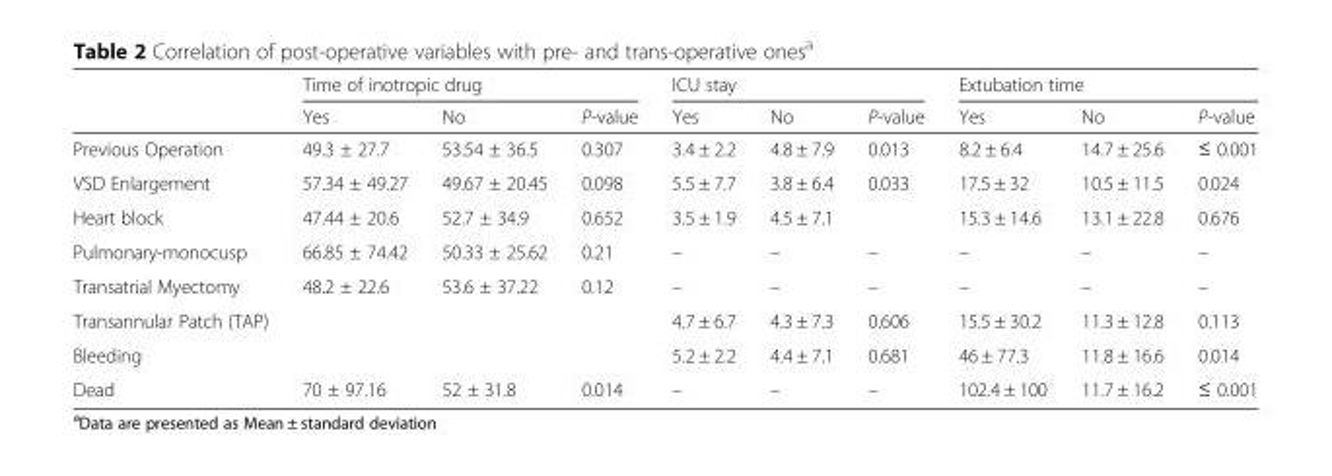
<table><thead><tr><td rowspan="2"></td><td colspan="3">Time of inotropic drug</td><td colspan="3">ICU stay</td><td colspan="3">Extubation time</td></tr><tr><td>Yes</td><td>No</td><td>P-value</td><td>Yes</td><td>No</td><td>P-value</td><td>Yes</td><td>No</td><td>P-value</td></tr></thead><tbody><tr><td>Previous Operation</td><td>49.3 ± 27.7</td><td>53.54 ± 36.5</td><td>0.307</td><td>3.4 ± 2.2</td><td>4.8 ± 7.9</td><td>0.013</td><td>8.2 ± 6.4</td><td>14.7 ± 25.6</td><td>≤ 0.001</td></tr><tr><td>VSD Enlargement</td><td>57.34 ± 49.27</td><td>49.67 ± 20.45</td><td>0.098</td><td>5.5 ± 7.7</td><td>3.8 ± 6.4</td><td>0.033</td><td>17.5 ± 32</td><td>10.5 ± 11.5</td><td>0.024</td></tr><tr><td>Heart block</td><td>47.44 ± 20.6</td><td>52.7 ± 34.9</td><td>0.652</td><td>3.5 ± 1.9</td><td>4.5 ± 7.1</td><td></td><td>15.3 ± 14.6</td><td>13.1 ± 22.8</td><td>0.676</td></tr><tr><td>Pulmonary-monocusp</td><td>66.85 ± 74.42</td><td>50.33 ± 25.62</td><td>0.21</td><td>–</td><td>–</td><td>–</td><td>–</td><td>–</td><td>–</td></tr><tr><td>Transatrial Myectomy</td><td>48.2 ± 22.6</td><td>53.6 ± 37.22</td><td>0.12</td><td>–</td><td>–</td><td>–</td><td>–</td><td>–</td><td>–</td></tr><tr><td>Transannular Patch (TAP)</td><td></td><td></td><td></td><td>4.7 ± 6.7</td><td>4.3 ± 7.3</td><td>0.606</td><td>15.5 ± 30.2</td><td>11.3 ± 12.8</td><td>0.113</td></tr><tr><td>Bleeding</td><td></td><td></td><td></td><td>5.2 ± 2.2</td><td>4.4 ± 7.1</td><td>0.681</td><td>46 ± 77.3</td><td>11.8 ± 16.6</td><td>0.014</td></tr><tr><td>Dead</td><td>70 ± 97.16</td><td>52 ± 31.8</td><td>0.014</td><td>–</td><td>–</td><td>–</td><td>102.4 ± 100</td><td>11.7 ± 16.2</td><td>≤ 0.001</td></tr></tbody></table>